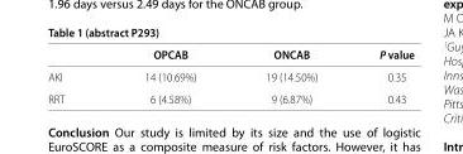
<table><thead><tr><td></td><td>OPCAB</td><td>ONCAB</td><td>P value</td></tr></thead><tbody><tr><td>AKI</td><td>14 (10.69%)</td><td>19 (14.50%)</td><td>0.35</td></tr><tr><td>RRT</td><td>6 (4.58%)</td><td>9 (6.87%)</td><td>0.43</td></tr></tbody></table>